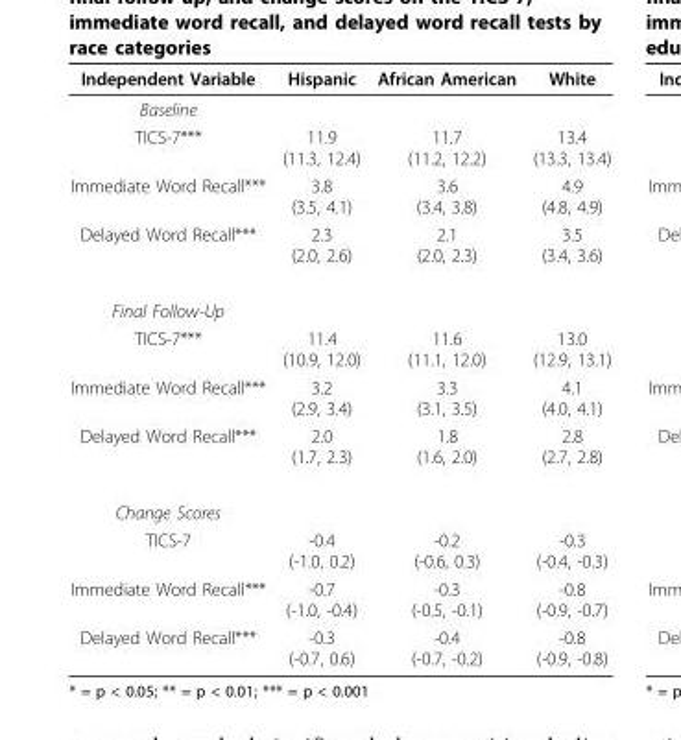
<table><thead><tr><td>Independent Variable</td><td>Hispanic</td><td>African American</td><td>White</td></tr></thead><tbody><tr><td colspan="4">Baseline</td></tr><tr><td>TICS-7***</td><td>11.9 (11.3, 12.4)</td><td>11.7 (11.2, 12.2)</td><td>13.4 (13.3, 13.4)</td></tr><tr><td>Immediate Word Recall***</td><td>3.8 (3.5, 4.1)</td><td>3.6 (3.4, 3.8)</td><td>4.9 (4.8, 4.9)</td></tr><tr><td>Delayed Word Recall***</td><td>2.3 (2.0, 2.6)</td><td>2.1 (2.0, 2.3)</td><td>3.5 (3.4, 3.6)</td></tr><tr><td colspan="4">Final Follow-Up</td></tr><tr><td>TICS-7***</td><td>11.4 (10.9, 12.0)</td><td>11.6 (11.1, 12.0)</td><td>13.0 (12.9, 13.1)</td></tr><tr><td>Immediate Word Recall***</td><td>3.2 (2.9, 3.4)</td><td>3.3 (3.1, 3.5)</td><td>4.1 (4.0, 4.1)</td></tr><tr><td>Delayed Word Recall***</td><td>2.0 (1.7, 2.3)</td><td>1.8 (1.6, 2.0)</td><td>2.8 (2.7, 2.8)</td></tr><tr><td colspan="4">Change Scores</td></tr><tr><td>TICS-7</td><td>-0.4 (-1.0, 0.2)</td><td>-0.2 (-0.6, 0.3)</td><td>-0.3 (-0.4, -0.3)</td></tr><tr><td>Immediate Word Recall***</td><td>-0.7 (-1.0, -0.4)</td><td>-0.3 (-0.5, -0.1)</td><td>-0.8 (-0.9, -0.7)</td></tr><tr><td>Delayed Word Recall***</td><td>-0.3 (-0.7, 0.6)</td><td>-0.4 (-0.7, -0.2)</td><td>-0.8 (-0.9, -0.8)</td></tr></tbody></table>